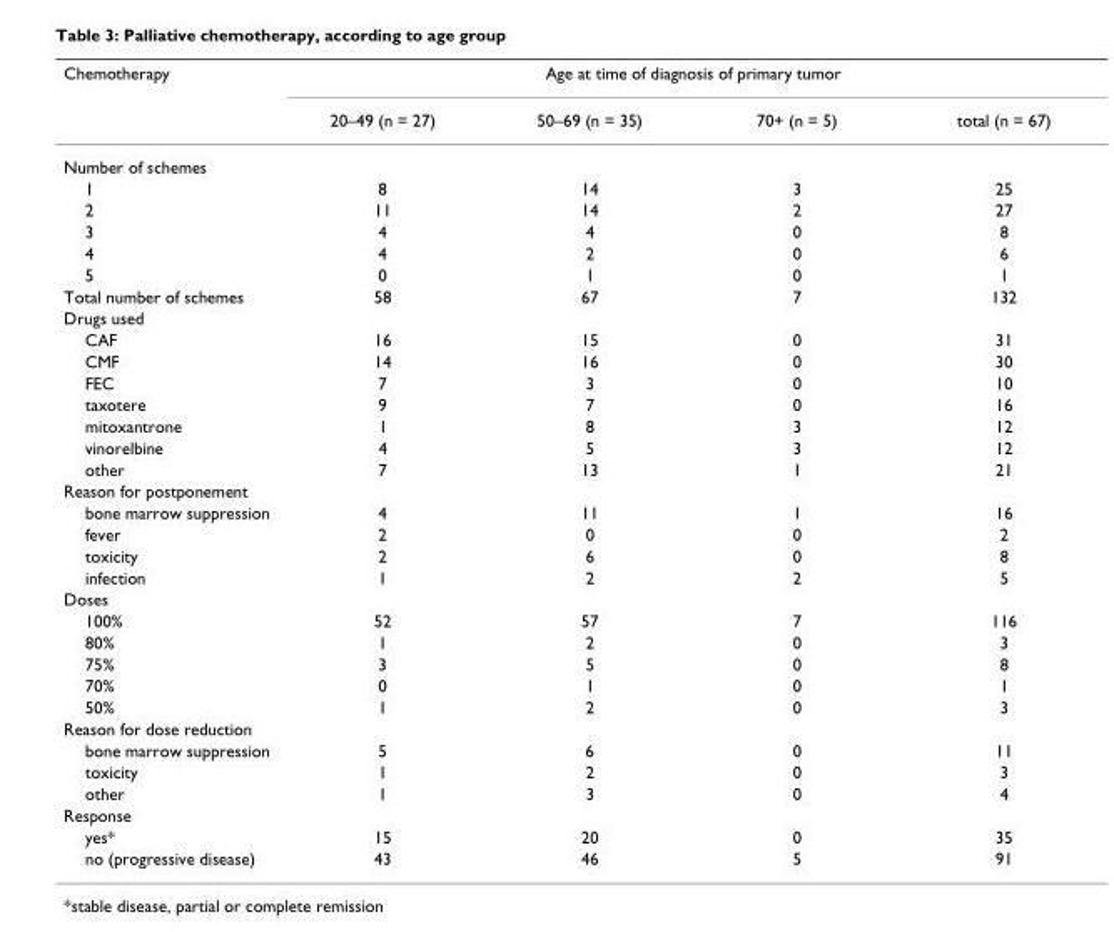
<table><thead><tr><td rowspan="2">Chemotherapy</td><td colspan="4">Age at time of diagnosis of primary tumor</td></tr><tr><td>20–49 (n = 27)</td><td>50–69 (n = 35)</td><td>70+ (n = 5)</td><td>total (n = 67)</td></tr></thead><tbody><tr><td colspan="5">Number of schemes</td></tr><tr><td>1</td><td>8</td><td>14</td><td>3</td><td>25</td></tr><tr><td>2</td><td>11</td><td>14</td><td>2</td><td>27</td></tr><tr><td>3</td><td>4</td><td>4</td><td>0</td><td>8</td></tr><tr><td>4</td><td>4</td><td>2</td><td>0</td><td>6</td></tr><tr><td>5</td><td>0</td><td>1</td><td>0</td><td>1</td></tr><tr><td>Total number of schemes</td><td>58</td><td>67</td><td>7</td><td>132</td></tr><tr><td colspan="5">Drugs used</td></tr><tr><td>CAF</td><td>16</td><td>15</td><td>0</td><td>31</td></tr><tr><td>CMF</td><td>14</td><td>16</td><td>0</td><td>30</td></tr><tr><td>FEC</td><td>7</td><td>3</td><td>0</td><td>10</td></tr><tr><td>taxotere</td><td>9</td><td>7</td><td>0</td><td>16</td></tr><tr><td>mitoxantrone</td><td>1</td><td>8</td><td>3</td><td>12</td></tr><tr><td>vinorelbine</td><td>4</td><td>5</td><td>3</td><td>12</td></tr><tr><td>other</td><td>7</td><td>13</td><td>1</td><td>21</td></tr><tr><td colspan="5">Reason for postponement</td></tr><tr><td>bone marrow suppression</td><td>4</td><td>11</td><td>1</td><td>16</td></tr><tr><td>fever</td><td>2</td><td>0</td><td>0</td><td>2</td></tr><tr><td>toxicity</td><td>2</td><td>6</td><td>0</td><td>8</td></tr><tr><td>infection</td><td>1</td><td>2</td><td>2</td><td>5</td></tr><tr><td colspan="5">Doses</td></tr><tr><td>100%</td><td>52</td><td>57</td><td>7</td><td>116</td></tr><tr><td>80%</td><td>1</td><td>2</td><td>0</td><td>3</td></tr><tr><td>75%</td><td>3</td><td>5</td><td>0</td><td>8</td></tr><tr><td>70%</td><td>0</td><td>1</td><td>0</td><td>1</td></tr><tr><td>50%</td><td>1</td><td>2</td><td>0</td><td>3</td></tr><tr><td colspan="5">Reason for dose reduction</td></tr><tr><td>bone marrow suppression</td><td>5</td><td>6</td><td>0</td><td>11</td></tr><tr><td>toxicity</td><td>1</td><td>2</td><td>0</td><td>3</td></tr><tr><td>other</td><td>1</td><td>3</td><td>0</td><td>4</td></tr><tr><td colspan="5">Response</td></tr><tr><td>yes*</td><td>15</td><td>20</td><td>0</td><td>35</td></tr><tr><td>no (progressive disease)</td><td>43</td><td>46</td><td>5</td><td>91</td></tr></tbody></table>